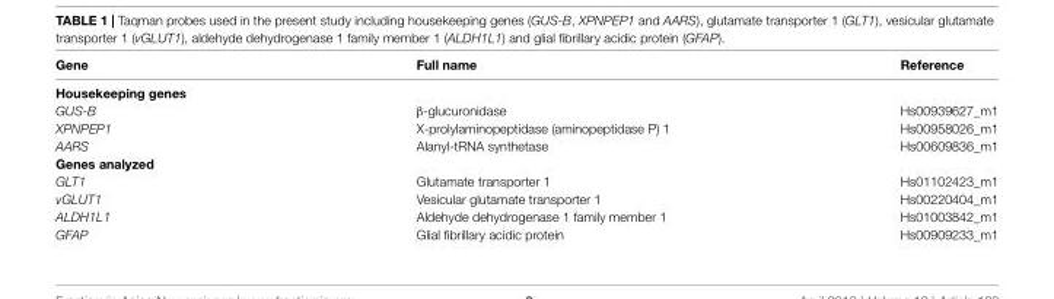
<table><thead><tr><td>Gene</td><td>Full name</td><td>Reference</td></tr></thead><tbody><tr><td colspan="3">Housekeeping genes</td></tr><tr><td>GUS-B</td><td>β-glucuronidase</td><td>Hs00939627_m1</td></tr><tr><td>XPNPEP1</td><td>X-prolylaminopeptidase (aminopeptidase P) 1</td><td>Hs00958026_m1</td></tr><tr><td>AARS</td><td>Alanyl-tRNA synthetase</td><td>Hs00609836_m1</td></tr><tr><td colspan="3">Genes analyzed</td></tr><tr><td>GLT1</td><td>Glutamate transporter 1</td><td>Hs01102423_m1</td></tr><tr><td>vGLUT1</td><td>Vesicular glutamate transporter 1</td><td>Hs00220404_m1</td></tr><tr><td>ALDH1L1</td><td>Aldehyde dehydrogenase 1 family member 1</td><td>Hs01003842_m1</td></tr><tr><td>GFAP</td><td>Glial fibrillary acidic protein</td><td>Hs00909233_m1</td></tr></tbody></table>